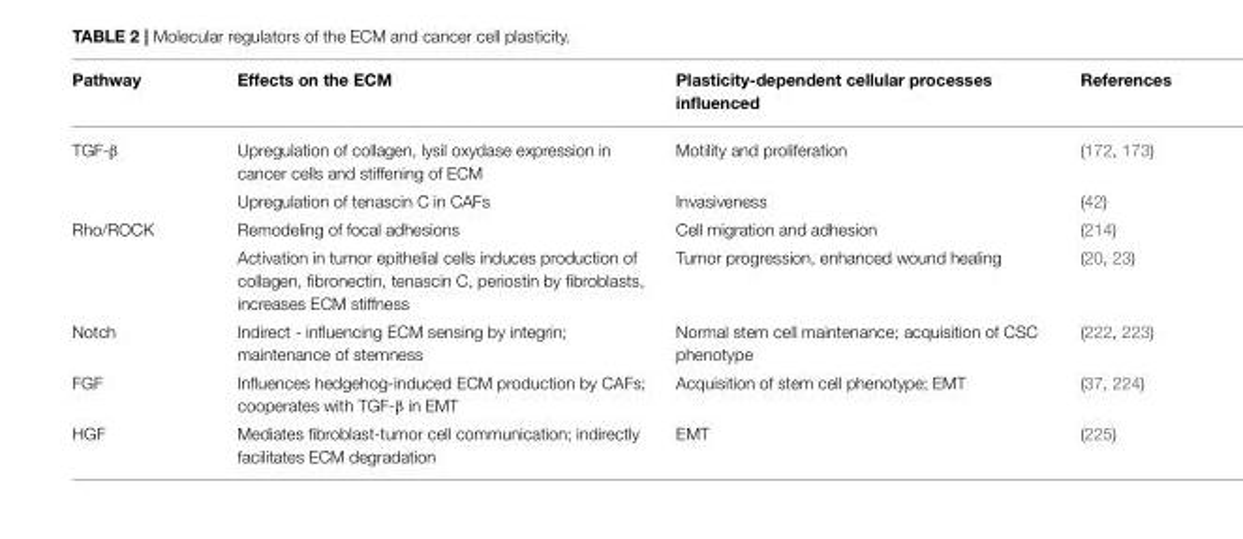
<table><thead><tr><td>Pathway</td><td>Effects on the ECM</td><td>Plasticity-dependent cellular processes influenced</td><td>References</td></tr></thead><tbody><tr><td rowspan="2">TGF-β</td><td>Upregulation of collagen, lysil oxydase expression in cancer cells and stiffening of ECM</td><td>Motility and proliferation</td><td>(172, 173)</td></tr><tr><td>Upregulation of tenascin C in CAFs</td><td>Invasiveness</td><td>(42)</td></tr><tr><td rowspan="2">Rho/ROCK</td><td>Remodeling of focal adhesions</td><td>Cell migration and adhesion</td><td>(214)</td></tr><tr><td>Activation in tumor epithelial cells induces production of collagen, fibronectin, tenascin C, periostin by fibroblasts, increases ECM stiffness</td><td>Tumor progression, enhanced wound healing</td><td>(20, 23)</td></tr><tr><td>Notch</td><td>Indirect - influencing ECM sensing by integrin; maintenance of stemness</td><td>Normal stem cell maintenance; acquisition of CSC phenotype</td><td>(222, 223)</td></tr><tr><td>FGF</td><td>Influences hedgehog-induced ECM production by CAFs; cooperates with TGF-β in EMT</td><td>Acquisition of stem cell phenotype; EMT</td><td>(37, 224)</td></tr><tr><td>HGF</td><td>Mediates fibroblast-tumor cell communication; indirectly facilitates ECM degradation</td><td>EMT</td><td>(225)</td></tr></tbody></table>